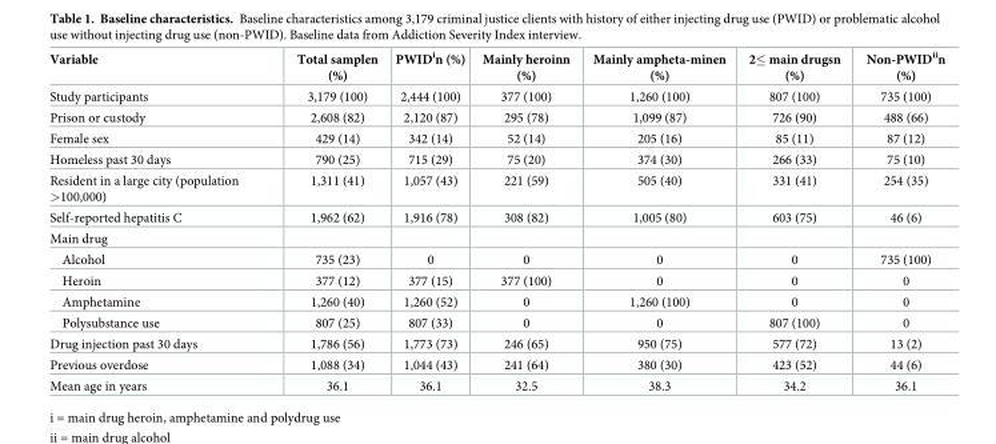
<table><thead><tr><td>Variable</td><td>Total samplen (%)</td><td>PWID<sup>i</sup>n (%)</td><td>Mainly heroinn (%)</td><td>Mainly ampheta-minen (%)</td><td>2≤ main drugsn (%)</td><td>Non-PWID<sup>ii</sup>n (%)</td></tr></thead><tbody><tr><td>Study participants</td><td>3,179 (100)</td><td>2,444 (100)</td><td>377 (100)</td><td>1,260 (100)</td><td>807 (100)</td><td>735 (100)</td></tr><tr><td>Prison or custody</td><td>2,608 (82)</td><td>2,120 (87)</td><td>295 (78)</td><td>1,099 (87)</td><td>726 (90)</td><td>488 (66)</td></tr><tr><td>Female sex</td><td>429 (14)</td><td>342 (14)</td><td>52 (14)</td><td>205 (16)</td><td>85 (11)</td><td>87 (12)</td></tr><tr><td>Homeless past 30 days</td><td>790 (25)</td><td>715 (29)</td><td>75 (20)</td><td>374 (30)</td><td>266 (33)</td><td>75 (10)</td></tr><tr><td>Resident in a large city (population &gt;100,000)</td><td>1,311 (41)</td><td>1,057 (43)</td><td>221 (59)</td><td>505 (40)</td><td>331 (41)</td><td>254 (35)</td></tr><tr><td>Self-reported hepatitis C</td><td>1,962 (62)</td><td>1,916 (78)</td><td>308 (82)</td><td>1,005 (80)</td><td>603 (75)</td><td>46 (6)</td></tr><tr><td colspan="7">Main drug</td></tr><tr><td>Alcohol</td><td>735 (23)</td><td>0</td><td>0</td><td>0</td><td>0</td><td>735 (100)</td></tr><tr><td>Heroin</td><td>377 (12)</td><td>377 (15)</td><td>377 (100)</td><td>0</td><td>0</td><td>0</td></tr><tr><td>Amphetamine</td><td>1,260 (40)</td><td>1,260 (52)</td><td>0</td><td>1,260 (100)</td><td>0</td><td>0</td></tr><tr><td>Polysubstance use</td><td>807 (25)</td><td>807 (33)</td><td>0</td><td>0</td><td>807 (100)</td><td>0</td></tr><tr><td>Drug injection past 30 days</td><td>1,786 (56)</td><td>1,773 (73)</td><td>246 (65)</td><td>950 (75)</td><td>577 (72)</td><td>13 (2)</td></tr><tr><td>Previous overdose</td><td>1,088 (34)</td><td>1,044 (43)</td><td>241 (64)</td><td>380 (30)</td><td>423 (52)</td><td>44 (6)</td></tr><tr><td>Mean age in years</td><td>36.1</td><td>36.1</td><td>32.5</td><td>38.3</td><td>34.2</td><td>36.1</td></tr></tbody></table>